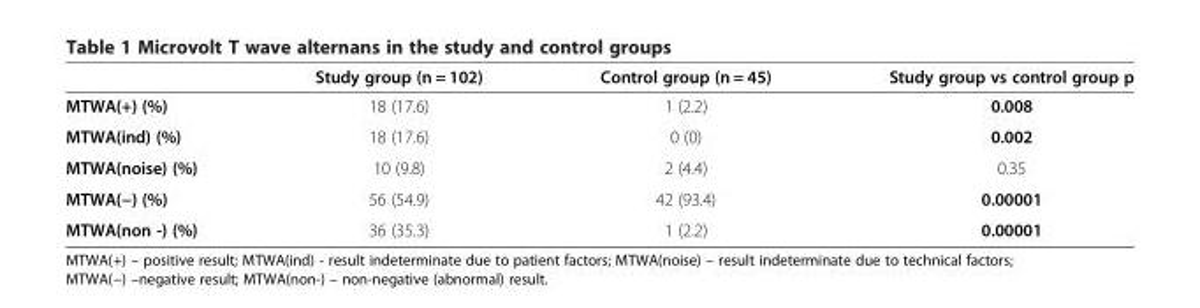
<table><thead><tr><td></td><td>Study group (n = 102)</td><td>Control group (n = 45)</td><td>Study group vs control group p</td></tr></thead><tbody><tr><td>MTWA(+) (%)</td><td>18 (17.6)</td><td>1 (2.2)</td><td>0.008</td></tr><tr><td>MTWA(ind) (%)</td><td>18 (17.6)</td><td>0 (0)</td><td>0.002</td></tr><tr><td>MTWA(noise) (%)</td><td>10 (9.8)</td><td>2 (4.4)</td><td>0.35</td></tr><tr><td>MTWA(−) (%)</td><td>56 (54.9)</td><td>42 (93.4)</td><td>0.00001</td></tr><tr><td>MTWA(non -) (%)</td><td>36 (35.3)</td><td>1 (2.2)</td><td>0.00001</td></tr></tbody></table>